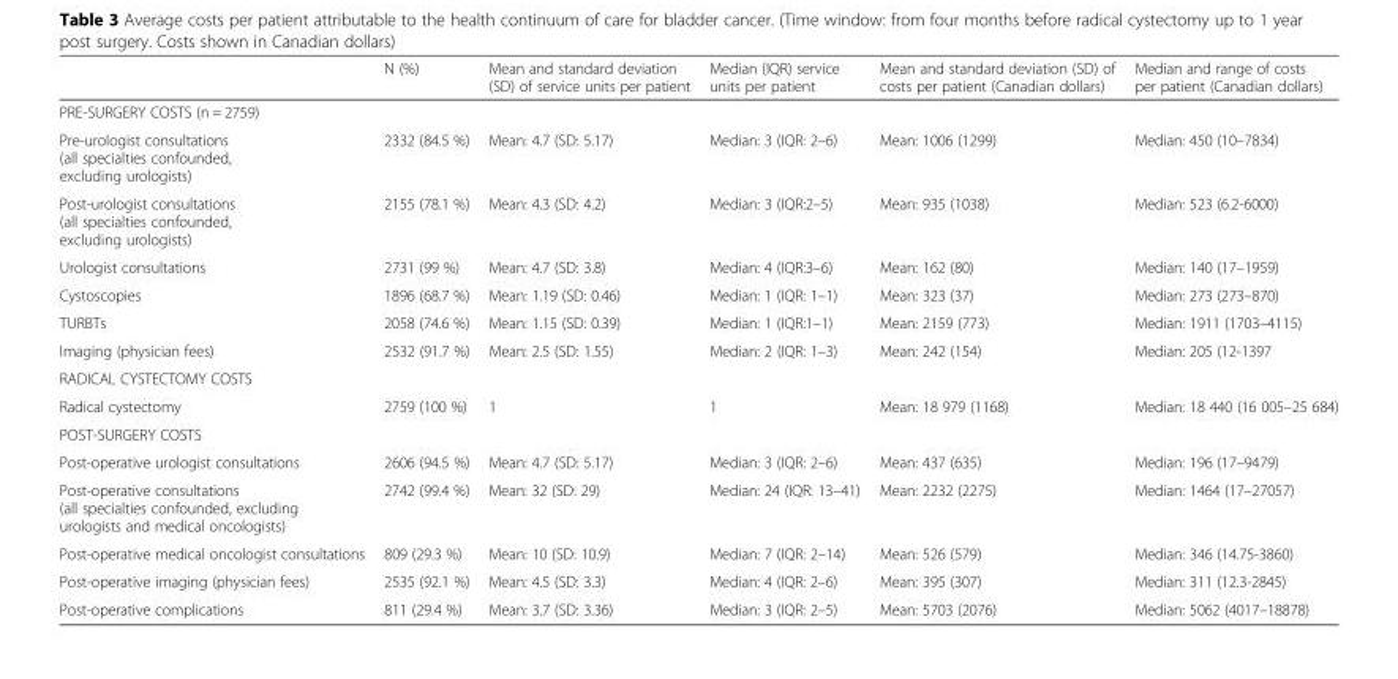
<table><thead><tr><td></td><td>N (%)</td><td>Mean and standard deviation (SD) of service units per patient</td><td>Median (IQR) service units per patient</td><td>Mean and standard deviation (SD) of costs per patient (Canadian dollars)</td><td>Median and range of costs per patient (Canadian dollars)</td></tr></thead><tbody><tr><td colspan="6">PRE-SURGERY COSTS (n = 2759)</td></tr><tr><td>Pre-urologist consultations (all specialties confounded, excluding urologists)</td><td>2332 (84.5 %)</td><td>Mean: 4.7 (SD: 5.17)</td><td>Median: 3 (IQR: 2–6)</td><td>Mean: 1006 (1299)</td><td>Median: 450 (10–7834)</td></tr><tr><td>Post-urologist consultations (all specialties confounded, excluding urologists)</td><td>2155 (78.1 %)</td><td>Mean: 4.3 (SD: 4.2)</td><td>Median: 3 (IQR:2–5)</td><td>Mean: 935 (1038)</td><td>Median: 523 (6.2-6000)</td></tr><tr><td>Urologist consultations</td><td>2731 (99 %)</td><td>Mean: 4.7 (SD: 3.8)</td><td>Median: 4 (IQR:3–6)</td><td>Mean: 162 (80)</td><td>Median: 140 (17–1959)</td></tr><tr><td>Cystoscopies</td><td>1896 (68.7 %)</td><td>Mean: 1.19 (SD: 0.46)</td><td>Median: 1 (IQR: 1–1)</td><td>Mean: 323 (37)</td><td>Median: 273 (273–870)</td></tr><tr><td>TURBTs</td><td>2058 (74.6 %)</td><td>Mean: 1.15 (SD: 0.39)</td><td>Median: 1 (IQR:1–1)</td><td>Mean: 2159 (773)</td><td>Median: 1911 (1703–4115)</td></tr><tr><td>Imaging (physician fees)</td><td>2532 (91.7 %)</td><td>Mean: 2.5 (SD: 1.55)</td><td>Median: 2 (IQR: 1–3)</td><td>Mean: 242 (154)</td><td>Median: 205 (12-1397</td></tr><tr><td colspan="6">RADICAL CYSTECTOMY COSTS</td></tr><tr><td>Radical cystectomy</td><td>2759 (100 %)</td><td>1</td><td>1</td><td>Mean: 18 979 (1168)</td><td>Median: 18 440 (16 005–25 684)</td></tr><tr><td colspan="6">POST-SURGERY COSTS</td></tr><tr><td>Post-operative urologist consultations</td><td>2606 (94.5 %)</td><td>Mean: 4.7 (SD: 5.17)</td><td>Median: 3 (IQR: 2–6)</td><td>Mean: 437 (635)</td><td>Median: 196 (17–9479)</td></tr><tr><td>Post-operative consultations (all specialties confounded, excluding urologists and medical oncologists)</td><td>2742 (99.4 %)</td><td>Mean: 32 (SD: 29)</td><td>Median: 24 (IQR: 13–41)</td><td>Mean: 2232 (2275)</td><td>Median: 1464 (17–27057)</td></tr><tr><td>Post-operative medical oncologist consultations</td><td>809 (29.3 %)</td><td>Mean: 10 (SD: 10.9)</td><td>Median: 7 (IQR: 2–14)</td><td>Mean: 526 (579)</td><td>Median: 346 (14.75-3860)</td></tr><tr><td>Post-operative imaging (physician fees)</td><td>2535 (92.1 %)</td><td>Mean: 4.5 (SD: 3.3)</td><td>Median: 4 (IQR: 2–6)</td><td>Mean: 395 (307)</td><td>Median: 311 (12.3-2845)</td></tr><tr><td>Post-operative complications</td><td>811 (29.4 %)</td><td>Mean: 3.7 (SD: 3.36)</td><td>Median: 3 (IQR: 2–5)</td><td>Mean: 5703 (2076)</td><td>Median: 5062 (4017–18878)</td></tr></tbody></table>